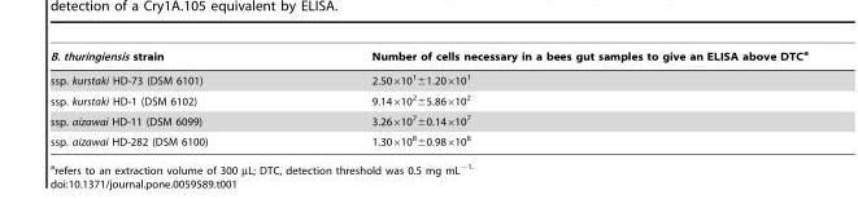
<table><thead><tr><td>B. thuringiensis strain</td><td>Number of cells necessary in a bees gut samples to give an ELISA above DTC<sup>a</sup></td></tr></thead><tbody><tr><td>ssp. kurstaki HD-73 (DSM 6101)</td><td>2.50×10<sup>1</sup>±1.20×10<sup>1</sup></td></tr><tr><td>ssp. kurstaki HD-1 (DSM 6102)</td><td>9.14×10<sup>2</sup>±5.86×10<sup>2</sup></td></tr><tr><td>ssp. aizawai HD-11 (DSM 6099)</td><td>3.26×10<sup>7</sup>±0.14×10<sup>7</sup></td></tr><tr><td>ssp. aizawai HD-282 (DSM 6100)</td><td>1.30×10<sup>8</sup>±0.98×10<sup>8</sup></td></tr></tbody></table>